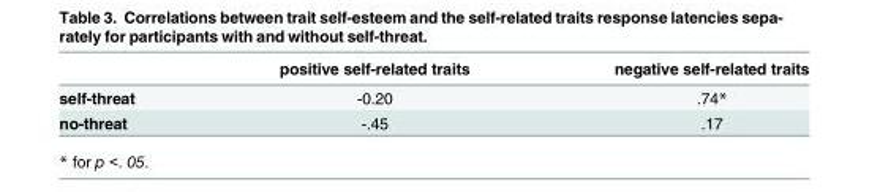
<table><thead><tr><td></td><td>positive self-related traits</td><td>negative self-related traits</td></tr></thead><tbody><tr><td>self-threat</td><td>-0.20</td><td>.74*</td></tr><tr><td>no-threat</td><td>-.45</td><td>.17</td></tr></tbody></table>